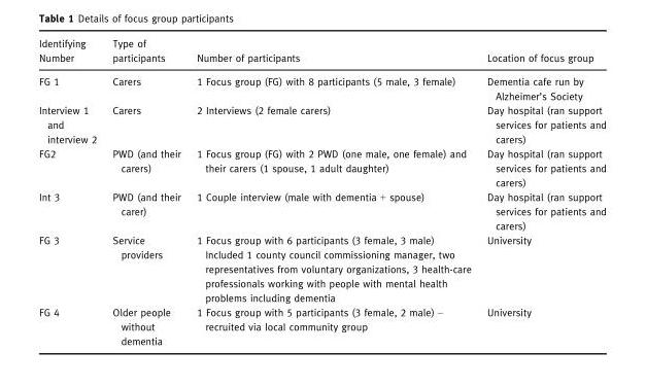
<table><thead><tr><td>Identifying Number</td><td>Type of participants</td><td>Number of participants</td><td>Location of focus group</td></tr></thead><tbody><tr><td>FG 1</td><td>Carers</td><td>1 Focus group (FG) with 8 participants (5 male, 3 female)</td><td>Dementia cafe run by Alzheimer’s Society</td></tr><tr><td>Interview 1 and interview 2</td><td>Carers</td><td>2 Interviews (2 female carers)</td><td>Day hospital (ran support services for patients and carers)</td></tr><tr><td>FG2</td><td>PWD (and their carers)</td><td>1 Focus group (FG) with 2 PWD (one male, one female) and their carers (1 spouse, 1 adult daughter)</td><td>Day hospital (ran support services for patients and carers)</td></tr><tr><td>Int 3</td><td>PWD (and their carer)</td><td>1 Couple interview (male with dementia + spouse)</td><td>Day hospital (ran support services for patients and carers)</td></tr><tr><td>FG 3</td><td>Service providers</td><td>1 Focus group with 6 participants (3 female, 3 male) Included 1 county council commissioning manager, two representatives from voluntary organizations, 3 health-care professionals working with people with mental health problems including dementia</td><td>University</td></tr><tr><td>FG 4</td><td>Older people without dementia</td><td>1 Focus group with 5 participants (3 female, 2 male) – recruited via local community group</td><td>University</td></tr></tbody></table>